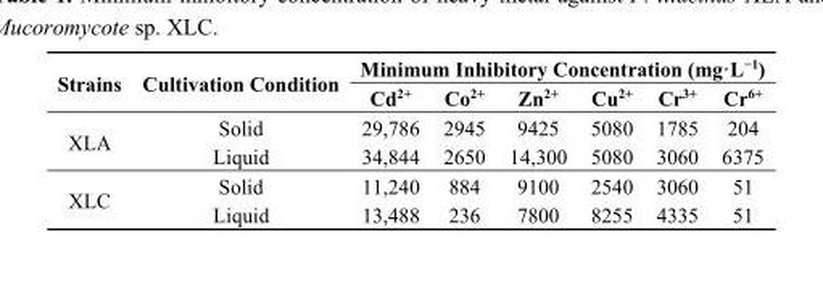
<table><thead><tr><td rowspan="2">Strains</td><td rowspan="2">Cultivation Condition</td><td colspan="6">Minimum Inhibitory Concentration (mg·L<sup>−1</sup>)</td></tr><tr><td>Cd<sup>2+</sup></td><td>Co<sup>2+</sup></td><td>Zn<sup>2+</sup></td><td>Cu<sup>2+</sup></td><td>Cr<sup>3+</sup></td><td>Cr<sup>6+</sup></td></tr></thead><tbody><tr><td rowspan="2">XLA</td><td>Solid</td><td>29,786</td><td>2945</td><td>9425</td><td>5080</td><td>1785</td><td>204</td></tr><tr><td>Liquid</td><td>34,844</td><td>2650</td><td>14,300</td><td>5080</td><td>3060</td><td>6375</td></tr><tr><td rowspan="2">XLC</td><td>Solid</td><td>11,240</td><td>884</td><td>9100</td><td>2540</td><td>3060</td><td>51</td></tr><tr><td>Liquid</td><td>13,488</td><td>236</td><td>7800</td><td>8255</td><td>4335</td><td>51</td></tr></tbody></table>